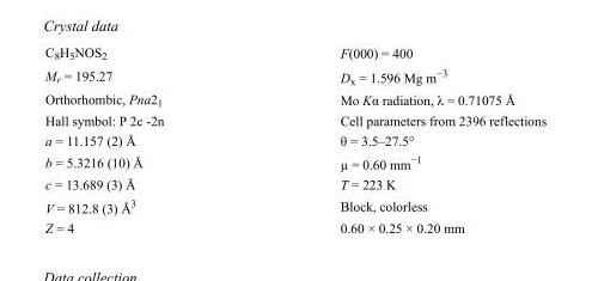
<table><tbody><tr><td>C<sub>8</sub>H<sub>5</sub>NOS<sub>2</sub></td><td>F(000) = 400</td></tr><tr><td>M<sub>r</sub> = 195.27</td><td>D<sub>x</sub> = 1.596 Mg m<sup>−3</sup></td></tr><tr><td>Orthorhombic, Pna2<sub>1</sub></td><td>Mo Kα radiation, λ = 0.71075 Å</td></tr><tr><td>Hall symbol: P 2c -2n</td><td>Cell parameters from 2396 reflections</td></tr><tr><td>a = 11.157 (2) Å</td><td>θ = 3.5–27.5°</td></tr><tr><td>b = 5.3216 (10) Å</td><td>µ = 0.60 mm<sup>−1</sup></td></tr><tr><td>c = 13.689 (3) Å</td><td>T = 223 K</td></tr><tr><td>V = 812.8 (3) Å<sup>3</sup></td><td>Block, colorless</td></tr><tr><td>Z = 4</td><td>0.60 × 0.25 × 0.20 mm</td></tr></tbody></table>